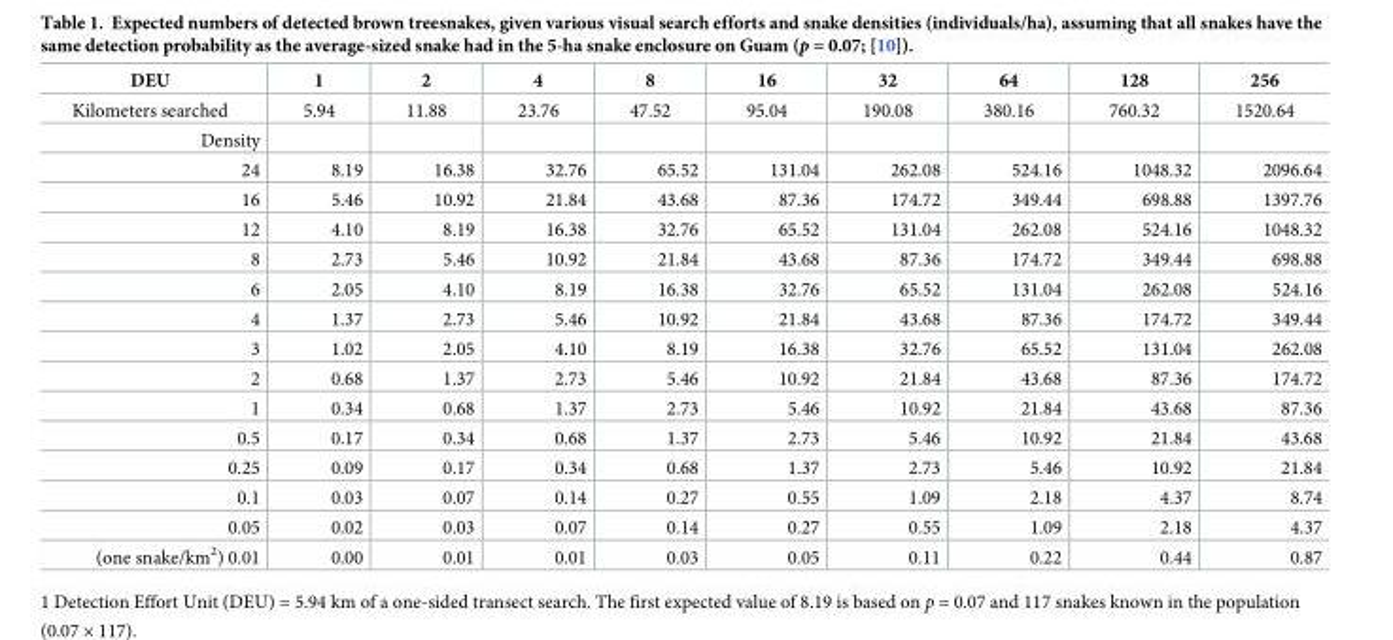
<table><thead><tr><td>DEU</td><td>1</td><td>2</td><td>4</td><td>8</td><td>16</td><td>32</td><td>64</td><td>128</td><td>256</td></tr></thead><tbody><tr><td>Kilometers searched</td><td>5.94</td><td>11.88</td><td>23.76</td><td>47.52</td><td>95.04</td><td>190.08</td><td>380.16</td><td>760.32</td><td>1520.64</td></tr><tr><td colspan="10">Density</td></tr><tr><td>24</td><td>8.19</td><td>16.38</td><td>32.76</td><td>65.52</td><td>131.04</td><td>262.08</td><td>524.16</td><td>1048.32</td><td>2096.64</td></tr><tr><td>16</td><td>5.46</td><td>10.92</td><td>21.84</td><td>43.68</td><td>87.36</td><td>174.72</td><td>349.44</td><td>698.88</td><td>1397.76</td></tr><tr><td>12</td><td>4.10</td><td>8.19</td><td>16.38</td><td>32.76</td><td>65.52</td><td>131.04</td><td>262.08</td><td>524.16</td><td>1048.32</td></tr><tr><td>8</td><td>2.73</td><td>5.46</td><td>10.92</td><td>21.84</td><td>43.68</td><td>87.36</td><td>174.72</td><td>349.44</td><td>698.88</td></tr><tr><td>6</td><td>2.05</td><td>4.10</td><td>8.19</td><td>16.38</td><td>32.76</td><td>65.52</td><td>131.04</td><td>262.08</td><td>524.16</td></tr><tr><td>4</td><td>1.37</td><td>2.73</td><td>5.46</td><td>10.92</td><td>21.84</td><td>43.68</td><td>87.36</td><td>174.72</td><td>349.44</td></tr><tr><td>3</td><td>1.02</td><td>2.05</td><td>4.10</td><td>8.19</td><td>16.38</td><td>32.76</td><td>65.52</td><td>131.04</td><td>262.08</td></tr><tr><td>2</td><td>0.68</td><td>1.37</td><td>2.73</td><td>5.46</td><td>10.92</td><td>21.84</td><td>43.68</td><td>87.36</td><td>174.72</td></tr><tr><td>1</td><td>0.34</td><td>0.68</td><td>1.37</td><td>2.73</td><td>5.46</td><td>10.92</td><td>21.84</td><td>43.68</td><td>87.36</td></tr><tr><td>0.5</td><td>0.17</td><td>0.34</td><td>0.68</td><td>1.37</td><td>2.73</td><td>5.46</td><td>10.92</td><td>21.84</td><td>43.68</td></tr><tr><td>0.25</td><td>0.09</td><td>0.17</td><td>0.34</td><td>0.68</td><td>1.37</td><td>2.73</td><td>5.46</td><td>10.92</td><td>21.84</td></tr><tr><td>0.1</td><td>0.03</td><td>0.07</td><td>0.14</td><td>0.27</td><td>0.55</td><td>1.09</td><td>2.18</td><td>4.37</td><td>8.74</td></tr><tr><td>0.05</td><td>0.02</td><td>0.03</td><td>0.07</td><td>0.14</td><td>0.27</td><td>0.55</td><td>1.09</td><td>2.18</td><td>4.37</td></tr><tr><td>(one snake/km<sup>2</sup>) 0.01</td><td>0.00</td><td>0.01</td><td>0.01</td><td>0.03</td><td>0.05</td><td>0.11</td><td>0.22</td><td>0.44</td><td>0.87</td></tr></tbody></table>